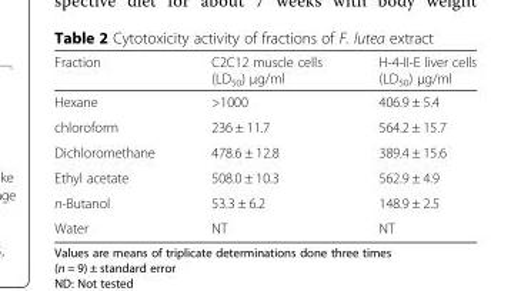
<table><thead><tr><td>Fraction</td><td>C2C12 muscle cells (LD<sub>50</sub>) μg/ml</td><td>H-4-II-E liver cells (LD<sub>50</sub>) μg/ml</td></tr></thead><tbody><tr><td>Hexane</td><td>&gt;1000</td><td>406.9 ± 5.4</td></tr><tr><td>chloroform</td><td>236 ± 11.7</td><td>564.2 ± 15.7</td></tr><tr><td>Dichloromethane</td><td>478.6 ± 12.8</td><td>389.4 ± 15.6</td></tr><tr><td>Ethyl acetate</td><td>508.0 ± 10.3</td><td>562.9 ± 4.9</td></tr><tr><td>n-Butanol</td><td>53.3 ± 6.2</td><td>148.9 ± 2.5</td></tr><tr><td>Water</td><td>NT</td><td>NT</td></tr></tbody></table>